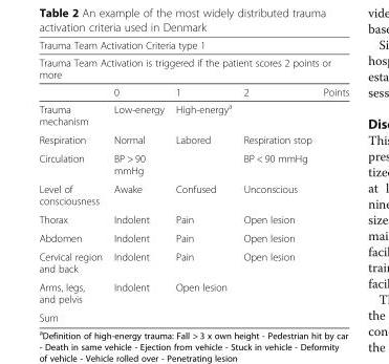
<table><thead><tr><td rowspan="2" colspan="5">Trauma Team Activation Criteria type 1 Trauma Team Activation is triggered if the patient scores 2 points or more</td></tr><tr></tr><tr><td></td><td>0</td><td>1</td><td>2</td><td>Points</td></tr></thead><tbody><tr><td>Trauma mechanism</td><td>Low-energy</td><td>High-energy<sup>a</sup></td><td></td><td></td></tr><tr><td>Respiration</td><td>Normal</td><td>Labored</td><td>Respiration stop</td><td></td></tr><tr><td>Circulation</td><td>BP &gt; 90 mmHg</td><td></td><td>BP &lt; 90 mmHg</td><td></td></tr><tr><td>Level of consciousness</td><td>Awake</td><td>Confused</td><td>Unconscious</td><td></td></tr><tr><td>Thorax</td><td>Indolent</td><td>Pain</td><td>Open lesion</td><td></td></tr><tr><td>Abdomen</td><td>Indolent</td><td>Pain</td><td>Open lesion</td><td></td></tr><tr><td>Cervical region and back</td><td>Indolent</td><td>Pain</td><td>Open lesion</td><td></td></tr><tr><td>Arms, legs, and pelvis</td><td>Indolent</td><td>Open lesion</td><td></td><td></td></tr><tr><td>Sum</td><td></td><td></td><td></td><td></td></tr></tbody></table>